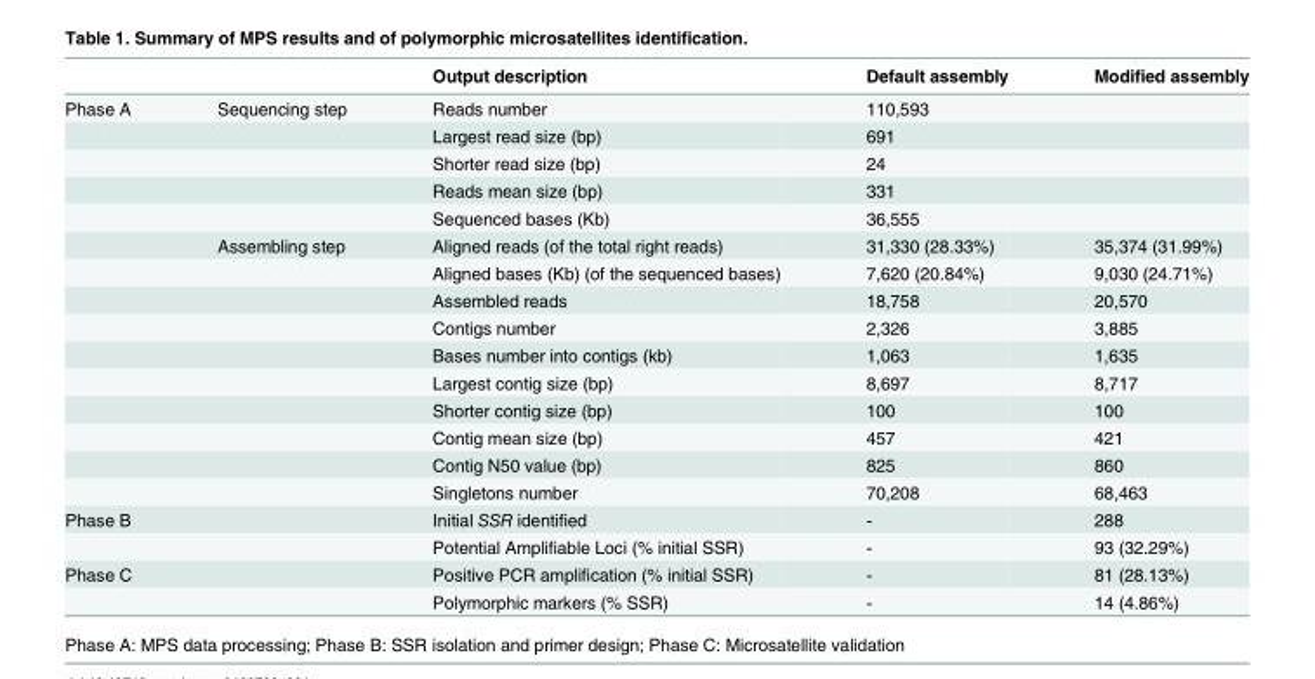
<table><thead><tr><td></td><td></td><td>Output description</td><td>Default assembly</td><td>Modified assembly</td></tr></thead><tbody><tr><td rowspan="15">Phase A</td><td>Sequencing step</td><td>Reads number</td><td colspan="2">110,593</td></tr><tr><td></td><td>Largest read size (bp)</td><td colspan="2">691</td></tr><tr><td></td><td>Shorter read size (bp)</td><td colspan="2">24</td></tr><tr><td></td><td>Reads mean size (bp)</td><td colspan="2">331</td></tr><tr><td></td><td>Sequenced bases (Kb)</td><td colspan="2">36,555</td></tr><tr><td>Assembling step</td><td>Aligned reads (of the total right reads)</td><td>31,330 (28.33%)</td><td>35,374 (31.99%)</td></tr><tr><td></td><td>Aligned bases (Kb) (of the sequenced bases)</td><td>7,620 (20.84%)</td><td>9,030 (24.71%)</td></tr><tr><td></td><td>Assembled reads</td><td>18,758</td><td>20,570</td></tr><tr><td></td><td>Contigs number</td><td>2,326</td><td>3,885</td></tr><tr><td></td><td>Bases number into contigs (kb)</td><td>1,063</td><td>1,635</td></tr><tr><td></td><td>Largest contig size (bp)</td><td>8,697</td><td>8,717</td></tr><tr><td></td><td>Shorter contig size (bp)</td><td>100</td><td>100</td></tr><tr><td></td><td>Contig mean size (bp)</td><td>457</td><td>421</td></tr><tr><td></td><td>Contig N50 value (bp)</td><td>825</td><td>860</td></tr><tr><td></td><td>Singletons number</td><td>70,208</td><td>68,463</td></tr><tr><td rowspan="2">Phase B</td><td></td><td>Initial SSR identified</td><td>-</td><td>288</td></tr><tr><td></td><td>Potential Amplifiable Loci (% initial SSR)</td><td>-</td><td>93 (32.29%)</td></tr><tr><td rowspan="2">Phase C</td><td></td><td>Positive PCR amplification (% initial SSR)</td><td>-</td><td>81 (28.13%)</td></tr><tr><td></td><td>Polymorphic markers (% SSR)</td><td>-</td><td>14 (4.86%)</td></tr></tbody></table>